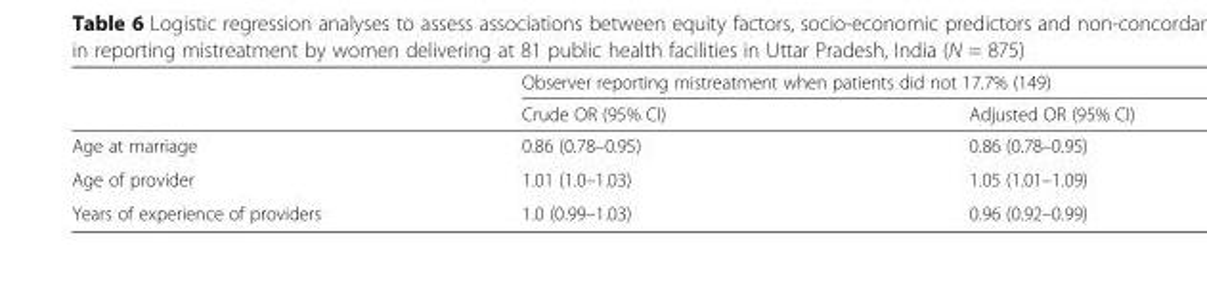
<table><thead><tr><td rowspan="2"></td><td colspan="2">Observer reporting mistreatment when patients did not 17.7% (149)</td></tr><tr><td>Crude OR (95% CI)</td><td>Adjusted OR (95% CI)</td></tr></thead><tbody><tr><td>Age at marriage</td><td>0.86 (0.78–0.95)</td><td>0.86 (0.78–0.95)</td></tr><tr><td>Age of provider</td><td>1.01 (1.0–1.03)</td><td>1.05 (1.01–1.09)</td></tr><tr><td>Years of experience of providers</td><td>1.0 (0.99–1.03)</td><td>0.96 (0.92–0.99)</td></tr></tbody></table>